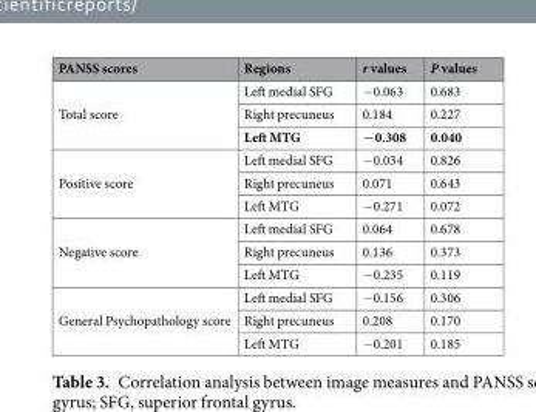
<table><thead><tr><td>PANSS scores</td><td>Regions</td><td>r values</td><td>P values</td></tr></thead><tbody><tr><td rowspan="3">Total score</td><td>Left medial SFG</td><td>−0.063</td><td>0.683</td></tr><tr><td>Right precuneus</td><td>0.184</td><td>0.227</td></tr><tr><td>Left MTG</td><td>−0.308</td><td>0.040</td></tr><tr><td rowspan="3">Positive score</td><td>Left medial SFG</td><td>−0.034</td><td>0.826</td></tr><tr><td>Right precuneus</td><td>0.071</td><td>0.643</td></tr><tr><td>Left MTG</td><td>−0.271</td><td>0.072</td></tr><tr><td rowspan="3">Negative score</td><td>Left medial SFG</td><td>0.064</td><td>0.678</td></tr><tr><td>Right precuneus</td><td>0.136</td><td>0.373</td></tr><tr><td>Left MTG</td><td>−0.235</td><td>0.119</td></tr><tr><td rowspan="3">General Psychopathology score</td><td>Left medial SFG</td><td>−0.156</td><td>0.306</td></tr><tr><td>Right precuneus</td><td>0.208</td><td>0.170</td></tr><tr><td>Left MTG</td><td>−0.201</td><td>0.185</td></tr></tbody></table>